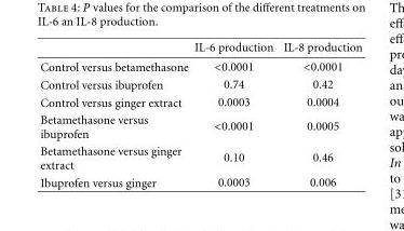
<table><thead><tr><td></td><td>IL-6 production</td><td>IL-8 production</td></tr></thead><tbody><tr><td>Control versus betamethasone</td><td>&lt;0.0001</td><td>&lt;0.0001</td></tr><tr><td>Control versus ibuprofen</td><td>0.74</td><td>0.42</td></tr><tr><td>Control versus ginger extract</td><td>0.0003</td><td>0.0004</td></tr><tr><td>Betamethasone versus ibuprofen</td><td>&lt;0.0001</td><td>0.0005</td></tr><tr><td>Betamethasone versus ginger extract</td><td>0.10</td><td>0.46</td></tr><tr><td>Ibuprofen versus ginger</td><td>0.0003</td><td>0.006</td></tr></tbody></table>